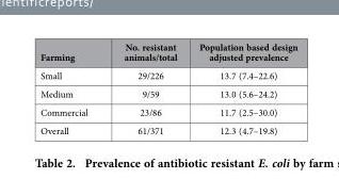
<table><thead><tr><td>Farming</td><td>No. resistant animals/total</td><td>Population based design adjusted prevalence</td></tr></thead><tbody><tr><td>Small</td><td>29/226</td><td>13.7 (7.4–22.6)</td></tr><tr><td>Medium</td><td>9/59</td><td>13.0 (5.6–24.2)</td></tr><tr><td>Commercial</td><td>23/86</td><td>11.7 (2.5–30.0)</td></tr><tr><td>Overall</td><td>61/371</td><td>12.3 (4.7–19.8)</td></tr></tbody></table>